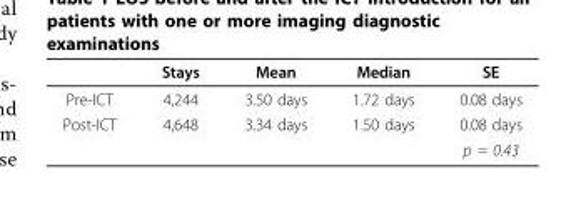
<table><thead><tr><td></td><td>Stays</td><td>Mean</td><td>Median</td><td>SE</td></tr></thead><tbody><tr><td>Pre-ICT</td><td>4,244</td><td>3.50 days</td><td>1.72 days</td><td>0.08 days</td></tr><tr><td rowspan="2">Post-ICT</td><td>4,648</td><td>3.34 days</td><td>1.50 days</td><td>0.08 days</td></tr><tr><td></td><td></td><td></td><td>p = 0.43</td></tr></tbody></table>